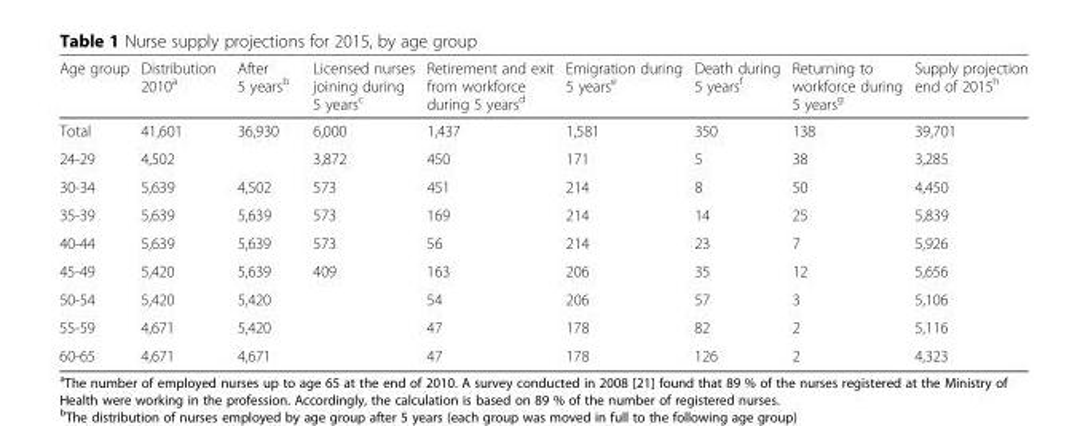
<table><thead><tr><td>Age group</td><td>Distribution 2010<sup>a</sup></td><td>After 5 years<sup>b</sup></td><td>Licensed nurses joining during 5 years<sup>c</sup></td><td>Retirement and exit from workforce during 5 years<sup>d</sup></td><td>Emigration during 5 years<sup>e</sup></td><td>Death during 5 years<sup>f</sup></td><td>Returning to workforce during 5 years<sup>g</sup></td><td>Supply projection end of 2015<sup>h</sup></td></tr></thead><tbody><tr><td>Total</td><td>41,601</td><td>36,930</td><td>6,000</td><td>1,437</td><td>1,581</td><td>350</td><td>138</td><td>39,701</td></tr><tr><td>24-29</td><td>4,502</td><td></td><td>3,872</td><td>450</td><td>171</td><td>5</td><td>38</td><td>3,285</td></tr><tr><td>30-34</td><td>5,639</td><td>4,502</td><td>573</td><td>451</td><td>214</td><td>8</td><td>50</td><td>4,450</td></tr><tr><td>35-39</td><td>5,639</td><td>5,639</td><td>573</td><td>169</td><td>214</td><td>14</td><td>25</td><td>5,839</td></tr><tr><td>40-44</td><td>5,639</td><td>5,639</td><td>573</td><td>56</td><td>214</td><td>23</td><td>7</td><td>5,926</td></tr><tr><td>45-49</td><td>5,420</td><td>5,639</td><td>409</td><td>163</td><td>206</td><td>35</td><td>12</td><td>5,656</td></tr><tr><td>50-54</td><td>5,420</td><td>5,420</td><td></td><td>54</td><td>206</td><td>57</td><td>3</td><td>5,106</td></tr><tr><td>55-59</td><td>4,671</td><td>5,420</td><td></td><td>47</td><td>178</td><td>82</td><td>2</td><td>5,116</td></tr><tr><td>60-65</td><td>4,671</td><td>4,671</td><td></td><td>47</td><td>178</td><td>126</td><td>2</td><td>4,323</td></tr></tbody></table>